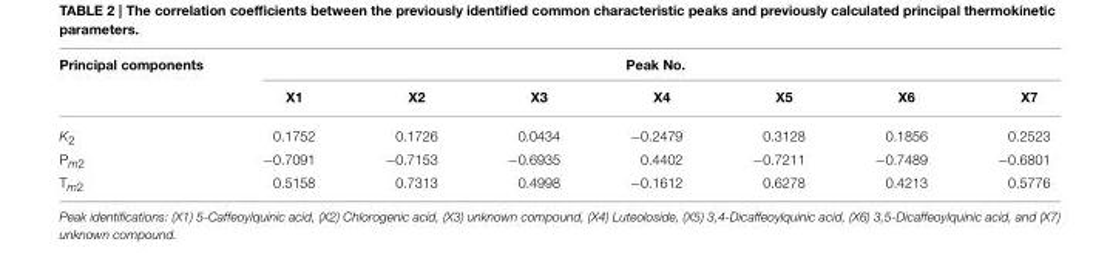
<table><thead><tr><td rowspan="2">Principal components</td><td colspan="7">Peak No.</td></tr><tr><td>X1</td><td>X2</td><td>X3</td><td>X4</td><td>X5</td><td>X6</td><td>X7</td></tr></thead><tbody><tr><td>K<sub>2</sub></td><td>0.1752</td><td>0.1726</td><td>0.0434</td><td>−0.2479</td><td>0.3128</td><td>0.1856</td><td>0.2523</td></tr><tr><td>P<sub>m2</sub></td><td>−0.7091</td><td>−0.7153</td><td>−0.6935</td><td>0.4402</td><td>−0.7211</td><td>−0.7489</td><td>−0.6801</td></tr><tr><td>T<sub>m2</sub></td><td>0.5158</td><td>0.7313</td><td>0.4998</td><td>−0.1612</td><td>0.6278</td><td>0.4213</td><td>0.5776</td></tr></tbody></table>